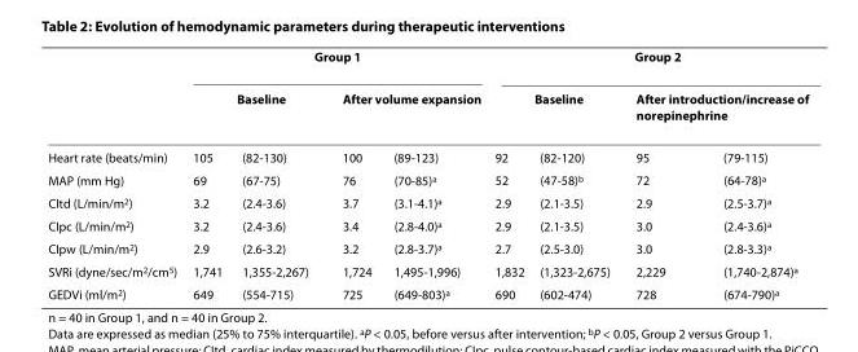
<table><thead><tr><td rowspan="3">Heart rate (beats/min)</td><td colspan="4">Group 1</td><td colspan="4">Group 2</td></tr><tr><td colspan="2">Baseline</td><td colspan="2">After volume expansion</td><td colspan="2">Baseline</td><td colspan="2">After introduction/increase of norepinephrine</td></tr><tr><td>105</td><td>(82-130)</td><td>100</td><td>(89-123)</td><td>92</td><td>(82-120)</td><td>95</td><td>(79-115)</td></tr></thead><tbody><tr><td>MAP (mm Hg)</td><td>69</td><td>(67-75)</td><td>76</td><td>(70-85)<sup>a</sup></td><td>52</td><td>(47-58)<sup>b</sup></td><td>72</td><td>(64-78)<sup>a</sup></td></tr><tr><td>CItd (L/min/m<sup>2</sup>)</td><td>3.2</td><td>(2.4-3.6)</td><td>3.7</td><td>(3.1-4.1)<sup>a</sup></td><td>2.9</td><td>(2.1-3.5)</td><td>2.9</td><td>(2.5-3.7)<sup>a</sup></td></tr><tr><td>CIpc (L/min/m<sup>2</sup>)</td><td>3.2</td><td>(2.4-3.6)</td><td>3.4</td><td>(2.8-4.0)<sup>a</sup></td><td>2.9</td><td>(2.1-3.5)</td><td>3.0</td><td>(2.4-3.6)<sup>a</sup></td></tr><tr><td>CIpw (L/min/m<sup>2</sup>)</td><td>2.9</td><td>(2.6-3.2)</td><td>3.2</td><td>(2.8-3.7)<sup>a</sup></td><td>2.7</td><td>(2.5-3.0)</td><td>3.0</td><td>(2.8-3.3)<sup>a</sup></td></tr><tr><td>SVRi (dyne/sec/m<sup>2</sup>/cm<sup>5</sup>)</td><td>1,741</td><td>1,355-2,267)</td><td>1,724</td><td>1,495-1,996)</td><td>1,832</td><td>(1,323-2,675)</td><td>2,229</td><td>(1,740-2,874)<sup>a</sup></td></tr><tr><td>GEDVi (ml/m<sup>2</sup>)</td><td>649</td><td>(554-715)</td><td>725</td><td>(649-803)<sup>a</sup></td><td>690</td><td>(602-474)</td><td>728</td><td>(674-790)<sup>a</sup></td></tr></tbody></table>